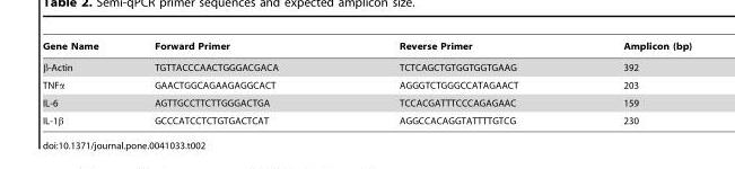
<table><thead><tr><td>Gene Name</td><td>Forward Primer</td><td>Reverse Primer</td><td>Amplicon (bp)</td></tr></thead><tbody><tr><td>β-Actin</td><td>TGTTACCCAACTGGGACGACA</td><td>TCTCAGCTGTGGTGGTGAAG</td><td>392</td></tr><tr><td>TNFα</td><td>GAACTGGCAGAAGAGGCACT</td><td>AGGGTCTGGGCCATAGAACT</td><td>203</td></tr><tr><td>IL-6</td><td>AGTTGCCTTCTTGGGACTGA</td><td>TCCACGATTTCCCAGAGAAC</td><td>159</td></tr><tr><td>IL-1β</td><td>GCCCATCCTCTGTGACTCAT</td><td>AGGCCACAGGTATTTTGTCG</td><td>230</td></tr></tbody></table>